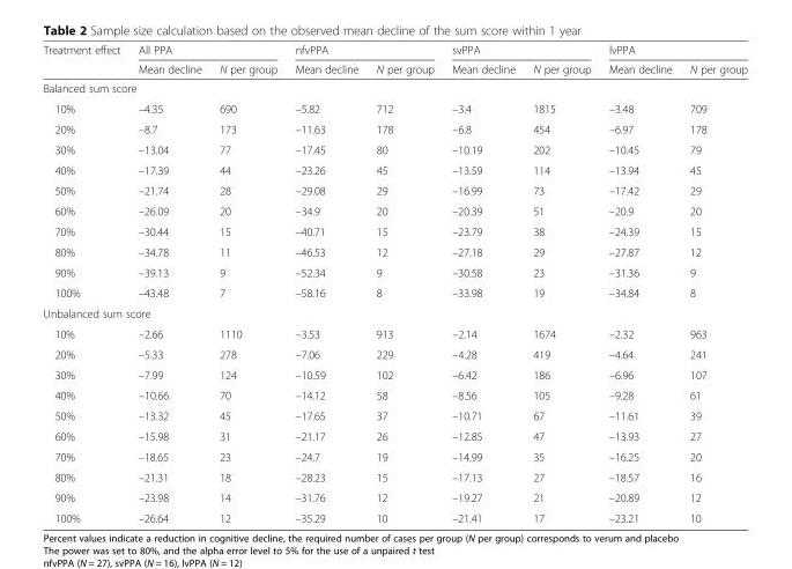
<table><thead><tr><td rowspan="2">Treatment effect</td><td colspan="2">All PPA</td><td colspan="2">nfvPPA</td><td colspan="2">svPPA</td><td colspan="2">lvPPA</td></tr><tr><td>Mean decline</td><td>N per group</td><td>Mean decline</td><td>N per group</td><td>Mean decline</td><td>N per group</td><td>Mean decline</td><td>N per group</td></tr></thead><tbody><tr><td colspan="9">Balanced sum score</td></tr><tr><td>10%</td><td>–4.35</td><td>690</td><td>–5.82</td><td>712</td><td>–3.4</td><td>1815</td><td>–3.48</td><td>709</td></tr><tr><td>20%</td><td>–8.7</td><td>173</td><td>–11.63</td><td>178</td><td>–6.8</td><td>454</td><td>–6.97</td><td>178</td></tr><tr><td>30%</td><td>–13.04</td><td>77</td><td>–17.45</td><td>80</td><td>–10.19</td><td>202</td><td>–10.45</td><td>79</td></tr><tr><td>40%</td><td>–17.39</td><td>44</td><td>–23.26</td><td>45</td><td>–13.59</td><td>114</td><td>–13.94</td><td>45</td></tr><tr><td>50%</td><td>–21.74</td><td>28</td><td>–29.08</td><td>29</td><td>–16.99</td><td>73</td><td>–17.42</td><td>29</td></tr><tr><td>60%</td><td>–26.09</td><td>20</td><td>–34.9</td><td>20</td><td>–20.39</td><td>51</td><td>–20.9</td><td>20</td></tr><tr><td>70%</td><td>–30.44</td><td>15</td><td>–40.71</td><td>15</td><td>–23.79</td><td>38</td><td>–24.39</td><td>15</td></tr><tr><td>80%</td><td>–34.78</td><td>11</td><td>–46.53</td><td>12</td><td>–27.18</td><td>29</td><td>–27.87</td><td>12</td></tr><tr><td>90%</td><td>–39.13</td><td>9</td><td>–52.34</td><td>9</td><td>–30.58</td><td>23</td><td>–31.36</td><td>9</td></tr><tr><td>100%</td><td>–43.48</td><td>7</td><td>–58.16</td><td>8</td><td>–33.98</td><td>19</td><td>–34.84</td><td>8</td></tr><tr><td colspan="9">Unbalanced sum score</td></tr><tr><td>10%</td><td>–2.66</td><td>1110</td><td>–3.53</td><td>913</td><td>–2.14</td><td>1674</td><td>–2.32</td><td>963</td></tr><tr><td>20%</td><td>–5.33</td><td>278</td><td>–7.06</td><td>229</td><td>–4.28</td><td>419</td><td>–4.64</td><td>241</td></tr><tr><td>30%</td><td>–7.99</td><td>124</td><td>–10.59</td><td>102</td><td>–6.42</td><td>186</td><td>–6.96</td><td>107</td></tr><tr><td>40%</td><td>–10.66</td><td>70</td><td>–14.12</td><td>58</td><td>–8.56</td><td>105</td><td>–9.28</td><td>61</td></tr><tr><td>50%</td><td>–13.32</td><td>45</td><td>–17.65</td><td>37</td><td>–10.71</td><td>67</td><td>–11.61</td><td>39</td></tr><tr><td>60%</td><td>–15.98</td><td>31</td><td>–21.17</td><td>26</td><td>–12.85</td><td>47</td><td>–13.93</td><td>27</td></tr><tr><td>70%</td><td>–18.65</td><td>23</td><td>–24.7</td><td>19</td><td>–14.99</td><td>35</td><td>–16.25</td><td>20</td></tr><tr><td>80%</td><td>–21.31</td><td>18</td><td>–28.23</td><td>15</td><td>–17.13</td><td>27</td><td>–18.57</td><td>16</td></tr><tr><td>90%</td><td>–23.98</td><td>14</td><td>–31.76</td><td>12</td><td>–19.27</td><td>21</td><td>–20.89</td><td>12</td></tr><tr><td>100%</td><td>–26.64</td><td>12</td><td>–35.29</td><td>10</td><td>–21.41</td><td>17</td><td>–23.21</td><td>10</td></tr></tbody></table>